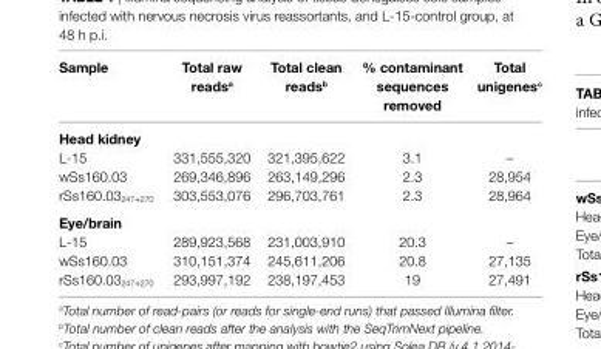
<table><thead><tr><td>sample</td><td>Total raw reads<sup>a</sup></td><td>Total clean reads<sup>b</sup></td><td>% contaminant sequences removed</td><td>Total unigenes<sup>c</sup></td></tr></thead><tbody><tr><td colspan="5">head kidney</td></tr><tr><td>L-15</td><td>331,555,320</td><td>321,395,622</td><td>3.1</td><td>–</td></tr><tr><td>wSs160.03</td><td>269,346,896</td><td>263,149,296</td><td>2.3</td><td>28,954</td></tr><tr><td>rSs160.03<sub>247+270</sub></td><td>303,553,076</td><td>296,703,761</td><td>2.3</td><td>28,964</td></tr><tr><td colspan="5">eye/brain</td></tr><tr><td>L-15</td><td>289,923,568</td><td>231,003,910</td><td>20.3</td><td>–</td></tr><tr><td>wSs160.03</td><td>310,151,374</td><td>245,611,206</td><td>20.8</td><td>27,135</td></tr><tr><td>rSs160.03<sub>247+270</sub></td><td>293,997,192</td><td>238,197,453</td><td>19</td><td>27,491</td></tr></tbody></table>